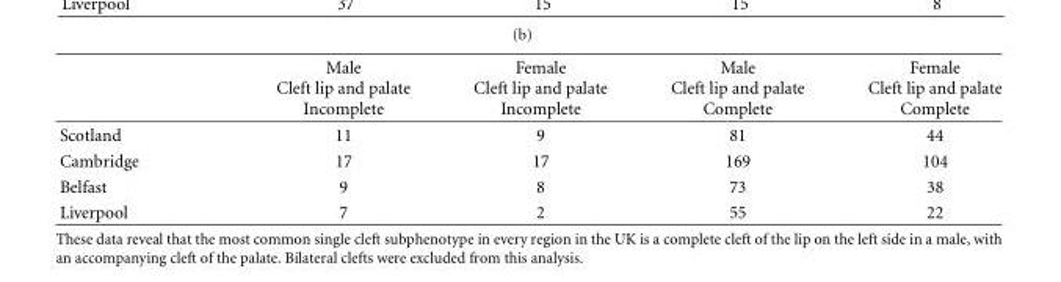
<table><thead><tr><td></td><td>Male Cleft lip and palate Incomplete</td><td>Female Cleft lip and palate Incomplete</td><td>Male Cleft lip and palate Complete</td><td>Female Cleft lip and palate Complete</td></tr></thead><tbody><tr><td>Scotland</td><td>11</td><td>9</td><td>81</td><td>44</td></tr><tr><td>Cambridge</td><td>17</td><td>17</td><td>169</td><td>104</td></tr><tr><td>Belfast</td><td>9</td><td>8</td><td>73</td><td>38</td></tr><tr><td>Liverpool</td><td>7</td><td>2</td><td>55</td><td>22</td></tr></tbody></table>